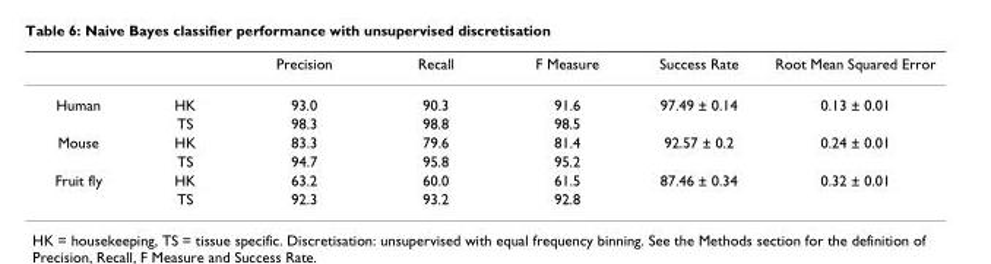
<table><thead><tr><td></td><td></td><td>Precision</td><td>Recall</td><td>F Measure</td><td>Success Rate</td><td>Root Mean Squared Error</td></tr></thead><tbody><tr><td rowspan="2">Human</td><td>HK</td><td>93.0</td><td>90.3</td><td>91.6</td><td>97.49 ± 0.14</td><td>0.13 ± 0.01</td></tr><tr><td>TS</td><td>98.3</td><td>98.8</td><td>98.5</td><td></td><td></td></tr><tr><td rowspan="2">Mouse</td><td>HK</td><td>83.3</td><td>79.6</td><td>81.4</td><td>92.57 ± 0.2</td><td>0.24 ± 0.01</td></tr><tr><td>TS</td><td>94.7</td><td>95.8</td><td>95.2</td><td></td><td></td></tr><tr><td rowspan="2">Fruit fly</td><td>HK</td><td>63.2</td><td>60.0</td><td>61.5</td><td>87.46 ± 0.34</td><td>0.32 ± 0.01</td></tr><tr><td>TS</td><td>92.3</td><td>93.2</td><td>92.8</td><td></td><td></td></tr></tbody></table>